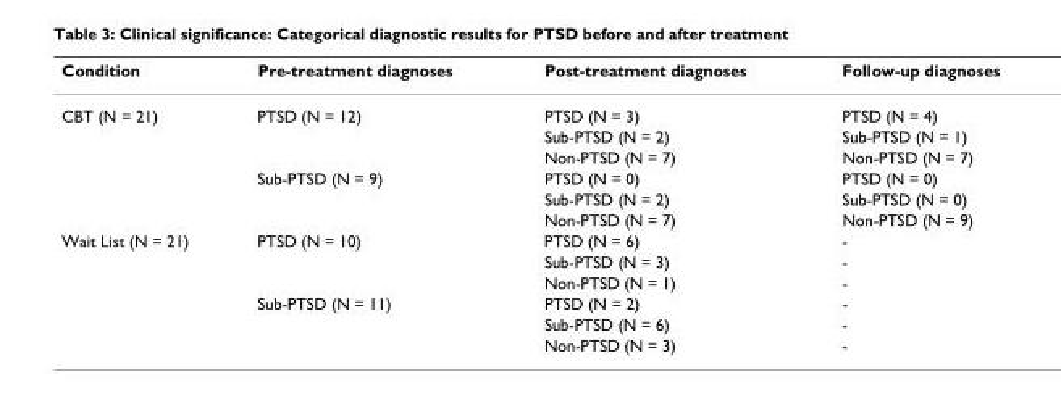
<table><thead><tr><td>Condition</td><td>Pre-treatment diagnoses</td><td>Post-treatment diagnoses</td><td>Follow-up diagnoses</td></tr></thead><tbody><tr><td rowspan="6">CBT (N = 21)</td><td>PTSD (N = 12)</td><td>PTSD (N = 3)</td><td>PTSD (N = 4)</td></tr><tr><td></td><td>Sub-PTSD (N = 2)</td><td>Sub-PTSD (N = 1)</td></tr><tr><td></td><td>Non-PTSD (N = 7)</td><td>Non-PTSD (N = 7)</td></tr><tr><td>Sub-PTSD (N = 9)</td><td>PTSD (N = 0)</td><td>PTSD (N = 0)</td></tr><tr><td></td><td>Sub-PTSD (N = 2)</td><td>Sub-PTSD (N = 0)</td></tr><tr><td></td><td>Non-PTSD (N = 7)</td><td>Non-PTSD (N = 9)</td></tr><tr><td rowspan="6">Wait List (N = 21)</td><td>PTSD (N = 10)</td><td>PTSD (N = 6)</td><td>-</td></tr><tr><td></td><td>Sub-PTSD (N = 3)</td><td>-</td></tr><tr><td></td><td>Non-PTSD (N = 1)</td><td>-</td></tr><tr><td>Sub-PTSD (N = 11)</td><td>PTSD (N = 2)</td><td>-</td></tr><tr><td></td><td>Sub-PTSD (N = 6)</td><td>-</td></tr><tr><td></td><td>Non-PTSD (N = 3)</td><td>-</td></tr></tbody></table>